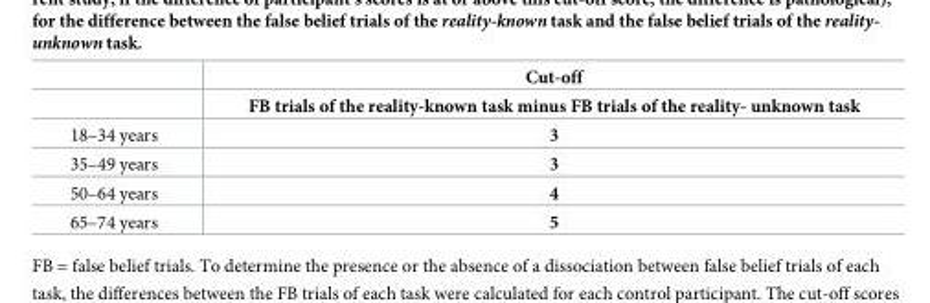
<table><thead><tr><td rowspan="2"></td><td rowspan="2">Cut-off FB trials of the reality-known task minus FB trials of the reality- unknown task</td></tr><tr></tr></thead><tbody><tr><td>18–34 years</td><td>3</td></tr><tr><td>35–49 years</td><td>3</td></tr><tr><td>50–64 years</td><td>4</td></tr><tr><td>65–74 years</td><td>5</td></tr></tbody></table>